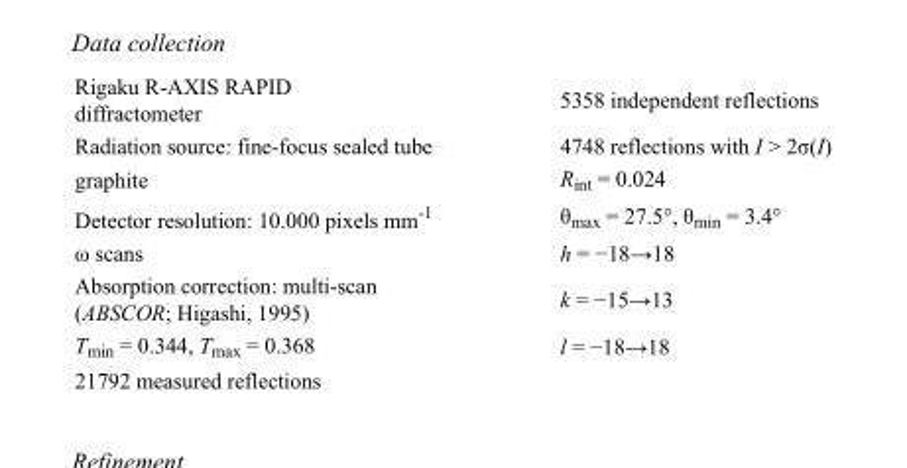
<table><tbody><tr><td>Rigaku R-AXIS RAPID diffractometer</td><td>5358 independent reflections</td></tr><tr><td>Radiation source: fine-focus sealed tube</td><td>4748 reflections with I &gt; 2σ(I)</td></tr><tr><td>graphite</td><td>R<sub>int</sub> = 0.024</td></tr><tr><td>Detector resolution: 10.000 pixels mm<sup>-1</sup></td><td>θ<sub>max</sub> = 27.5°, θ<sub>min</sub> = 3.4°</td></tr><tr><td>ω scans</td><td>h = −18→18</td></tr><tr><td>Absorption correction: multi-scan (ABSCOR; Higashi, 1995)</td><td>k = −15→13</td></tr><tr><td>T<sub>min</sub> = 0.344, T<sub>max</sub> = 0.368</td><td>l = −18→18</td></tr><tr><td>21792 measured reflections</td><td></td></tr></tbody></table>